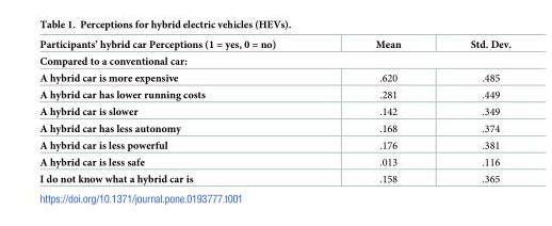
<table><thead><tr><td>Participants’ hybrid car Perceptions (1 = yes, 0 = no)</td><td>Mean</td><td>Std. Dev.</td></tr></thead><tbody><tr><td colspan="3">Compared to a conventional car:</td></tr><tr><td>A hybrid car is more expensive</td><td>.620</td><td>.485</td></tr><tr><td>A hybrid car has lower running costs</td><td>.281</td><td>.449</td></tr><tr><td>A hybrid car is slower</td><td>.142</td><td>.349</td></tr><tr><td>A hybrid car has less autonomy</td><td>.168</td><td>.374</td></tr><tr><td>A hybrid car is less powerful</td><td>.176</td><td>.381</td></tr><tr><td>A hybrid car is less safe</td><td>.013</td><td>.116</td></tr><tr><td>I do not know what a hybrid car is</td><td>.158</td><td>.365</td></tr></tbody></table>